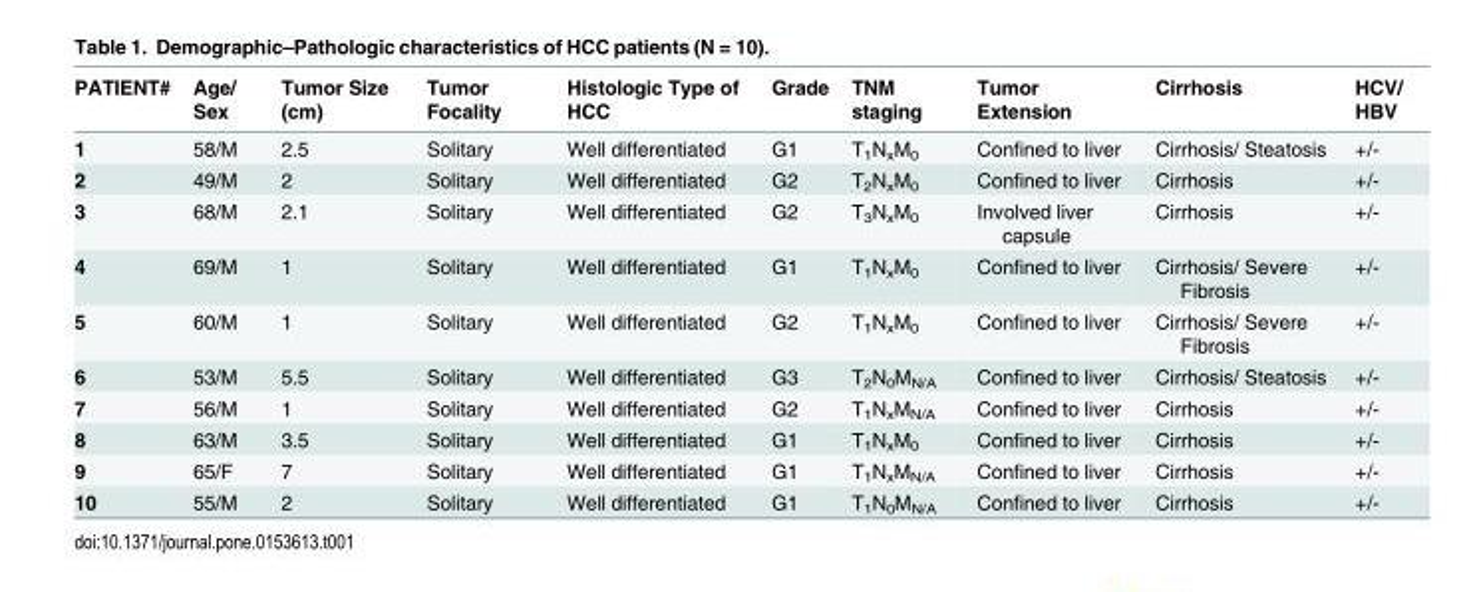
<table><thead><tr><td>PATIENT#</td><td>Age/ Sex</td><td>Tumor Size (cm)</td><td>Tumor Focality</td><td>Histologic Type of HCC</td><td>Grade</td><td>TNM staging</td><td>Tumor Extension</td><td>Cirrhosis</td><td>HCV/ HBV</td></tr></thead><tbody><tr><td>1</td><td>58/M</td><td>2.5</td><td>Solitary</td><td>Well differentiated</td><td>G1</td><td>T<sub>1</sub>N<sub>x</sub>M<sub>0</sub></td><td>Confined to liver</td><td>Cirrhosis/ Steatosis</td><td>+/-</td></tr><tr><td>2</td><td>49/M</td><td>2</td><td>Solitary</td><td>Well differentiated</td><td>G2</td><td>T<sub>2</sub>N<sub>x</sub>M<sub>0</sub></td><td>Confined to liver</td><td>Cirrhosis</td><td>+/-</td></tr><tr><td>3</td><td>68/M</td><td>2.1</td><td>Solitary</td><td>Well differentiated</td><td>G2</td><td>T<sub>3</sub>N<sub>x</sub>M<sub>0</sub></td><td>Involved liver capsule</td><td>Cirrhosis</td><td>+/-</td></tr><tr><td>4</td><td>69/M</td><td>1</td><td>Solitary</td><td>Well differentiated</td><td>G1</td><td>T<sub>1</sub>N<sub>x</sub>M<sub>0</sub></td><td>Confined to liver</td><td>Cirrhosis/ Severe Fibrosis</td><td>+/-</td></tr><tr><td>5</td><td>60/M</td><td>1</td><td>Solitary</td><td>Well differentiated</td><td>G2</td><td>T<sub>1</sub>N<sub>x</sub>M<sub>0</sub></td><td>Confined to liver</td><td>Cirrhosis/ Severe Fibrosis</td><td>+/-</td></tr><tr><td>6</td><td>53/M</td><td>5.5</td><td>Solitary</td><td>Well differentiated</td><td>G3</td><td>T<sub>2</sub>N<sub>0</sub>M<sub>N/A</sub></td><td>Confined to liver</td><td>Cirrhosis/ Steatosis</td><td>+/-</td></tr><tr><td>7</td><td>56/M</td><td>1</td><td>Solitary</td><td>Well differentiated</td><td>G2</td><td>T<sub>1</sub>N<sub>x</sub>M<sub>N/A</sub></td><td>Confined to liver</td><td>Cirrhosis</td><td>+/-</td></tr><tr><td>8</td><td>63/M</td><td>3.5</td><td>Solitary</td><td>Well differentiated</td><td>G1</td><td>T<sub>1</sub>N<sub>x</sub>M<sub>0</sub></td><td>Confined to liver</td><td>Cirrhosis</td><td>+/-</td></tr><tr><td>9</td><td>65/F</td><td>7</td><td>Solitary</td><td>Well differentiated</td><td>G1</td><td>T<sub>1</sub>N<sub>x</sub>M<sub>N/A</sub></td><td>Confined to liver</td><td>Cirrhosis</td><td>+/-</td></tr><tr><td>10</td><td>55/M</td><td>2</td><td>Solitary</td><td>Well differentiated</td><td>G1</td><td>T<sub>1</sub>N<sub>0</sub>M<sub>N/A</sub></td><td>Confined to liver</td><td>Cirrhosis</td><td>+/-</td></tr></tbody></table>